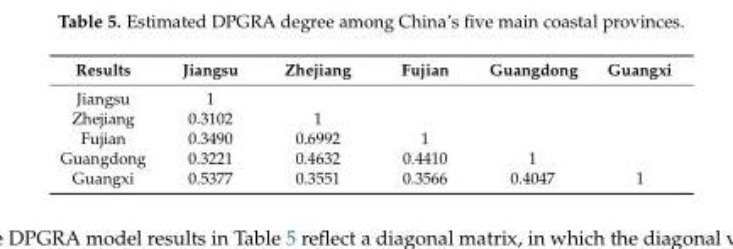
<table><thead><tr><td>Results</td><td>Jiangsu</td><td>Zhejiang</td><td>Fujian</td><td>Guangdong</td><td>Guangxi</td></tr></thead><tbody><tr><td>Jiangsu</td><td>1</td><td></td><td></td><td></td><td></td></tr><tr><td>Zhejiang</td><td>0.3102</td><td>1</td><td></td><td></td><td></td></tr><tr><td>Fujian</td><td>0.3490</td><td>0.6992</td><td>1</td><td></td><td></td></tr><tr><td>Guangdong</td><td>0.3221</td><td>0.4632</td><td>0.4410</td><td>1</td><td></td></tr><tr><td>Guangxi</td><td>0.5377</td><td>0.3551</td><td>0.3566</td><td>0.4047</td><td>1</td></tr></tbody></table>